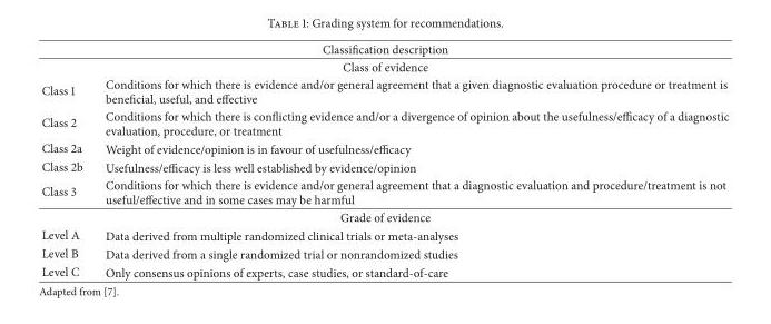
<table><thead><tr><td rowspan="2" colspan="2">Classification description Class of evidence</td></tr><tr></tr><tr><td>Class 1</td><td>Conditions for which there is evidence and/or general agreement that a given diagnostic evaluation procedure or treatment is beneficial, useful, and effective</td></tr></thead><tbody><tr><td>Class 2</td><td>Conditions for which there is conflicting evidence and/or a divergence of opinion about the usefulness/efficacy of a diagnostic evaluation, procedure, or treatment</td></tr><tr><td>Class 2a</td><td>Weight of evidence/opinion is in favour of usefulness/efficacy</td></tr><tr><td>Class 2b</td><td>Usefulness/efficacy is less well established by evidence/opinion</td></tr><tr><td>Class 3</td><td>Conditions for which there is evidence and/or general agreement that a diagnostic evaluation and procedure/treatment is not useful/effective and in some cases may be harmful</td></tr><tr><td colspan="2">Grade of evidence</td></tr><tr><td>Level A</td><td>Data derived from multiple randomized clinical trials or meta-analyses</td></tr><tr><td>Level B</td><td>Data derived from a single randomized trial or nonrandomized studies</td></tr><tr><td>Level C</td><td>Only consensus opinions of experts, case studies, or standard-of-care</td></tr></tbody></table>